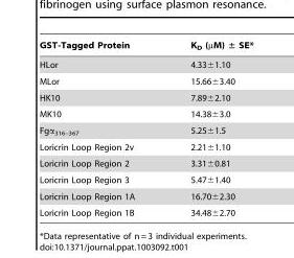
<table><thead><tr><td>GST-Tagged Protein</td><td>K<sub>D</sub> (µM) ± SE*</td></tr></thead><tbody><tr><td>HLor</td><td>4.33±1.10</td></tr><tr><td>MLor</td><td>15.66±3.40</td></tr><tr><td>HK10</td><td>7.89±2.10</td></tr><tr><td>MK10</td><td>14.38±3.0</td></tr><tr><td>Fgα<sub>316–367</sub></td><td>5.25±1.5</td></tr><tr><td>Loricrin Loop Region 2v</td><td>2.21±1.10</td></tr><tr><td>Loricrin Loop Region 2</td><td>3.31±0.81</td></tr><tr><td>Loricrin Loop Region 3</td><td>5.47±1.40</td></tr><tr><td>Loricrin Loop Region 1A</td><td>16.70±2.30</td></tr><tr><td>Loricrin Loop Region 1B</td><td>34.48±2.70</td></tr></tbody></table>